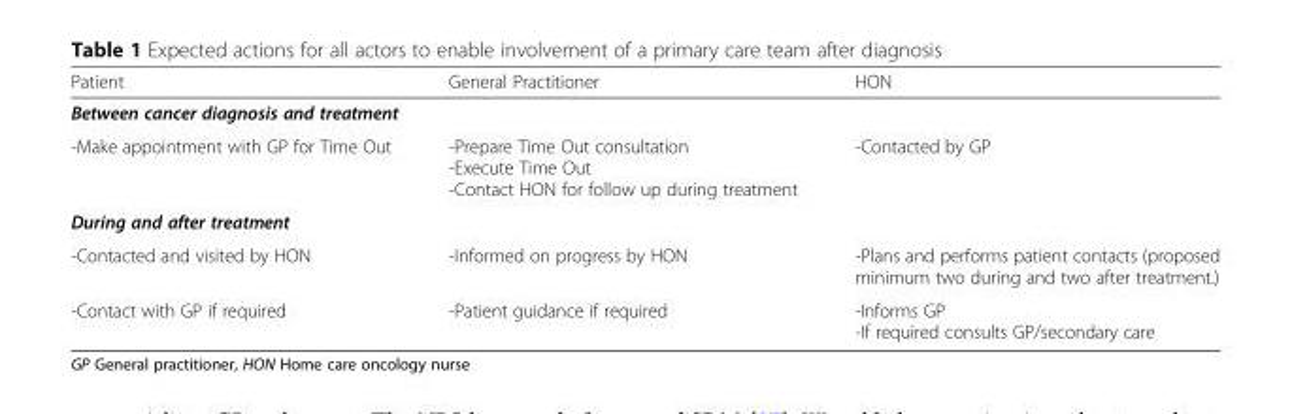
<table><thead><tr><td>Patient</td><td>General Practitioner</td><td>HON</td></tr></thead><tbody><tr><td colspan="3">Between cancer diagnosis and treatment</td></tr><tr><td>-Make appointment with GP for Time Out</td><td>-Prepare Time Out consultation -Execute Time Out -Contact HON for follow up during treatment</td><td>-Contacted by GP</td></tr><tr><td colspan="3">During and after treatment</td></tr><tr><td>-Contacted and visited by HON</td><td>-Informed on progress by HON</td><td>-Plans and performs patient contacts (proposed minimum two during and two after treatment.)</td></tr><tr><td>-Contact with GP if required</td><td>-Patient guidance if required</td><td>-Informs GP -If required consults GP/secondary care</td></tr></tbody></table>